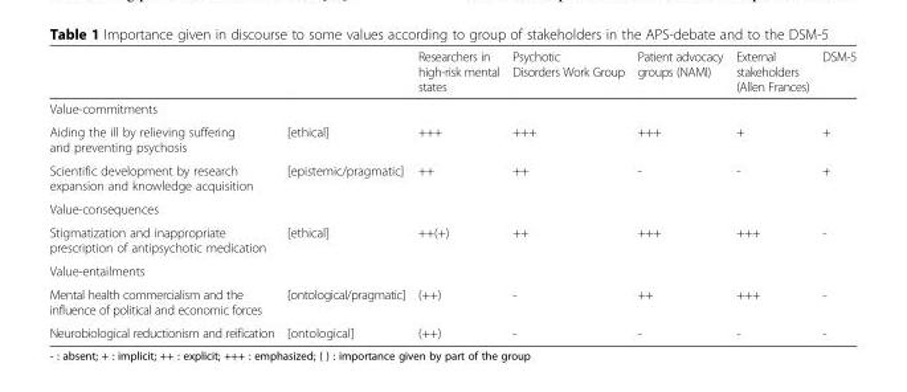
<table><thead><tr><td></td><td></td><td>Researchers in high-risk mental states</td><td>Psychotic Disorders Work Group</td><td>Patient advocacy groups (NAMI)</td><td>External stakeholders (Allen Frances)</td><td>DSM-5</td></tr></thead><tbody><tr><td colspan="7">Value-commitments</td></tr><tr><td>Aiding the ill by relieving suffering and preventing psychosis</td><td>[ethical]</td><td>+++</td><td>+++</td><td>+++</td><td>+</td><td>+</td></tr><tr><td>Scientific development by research expansion and knowledge acquisition</td><td>[epistemic/pragmatic]</td><td>++</td><td>++</td><td>-</td><td>-</td><td>+</td></tr><tr><td colspan="7">Value-consequences</td></tr><tr><td>Stigmatization and inappropriate prescription of antipsychotic medication</td><td>[ethical]</td><td>++(+)</td><td>++</td><td>+++</td><td>+++</td><td>-</td></tr><tr><td colspan="7">Value-entailments</td></tr><tr><td>Mental health commercialism and the influence of political and economic forces</td><td>[ontological/pragmatic]</td><td>(++)</td><td>-</td><td>++</td><td>+++</td><td>-</td></tr><tr><td>Neurobiological reductionism and reification</td><td>[ontological]</td><td>(++)</td><td>-</td><td>-</td><td>-</td><td>-</td></tr></tbody></table>